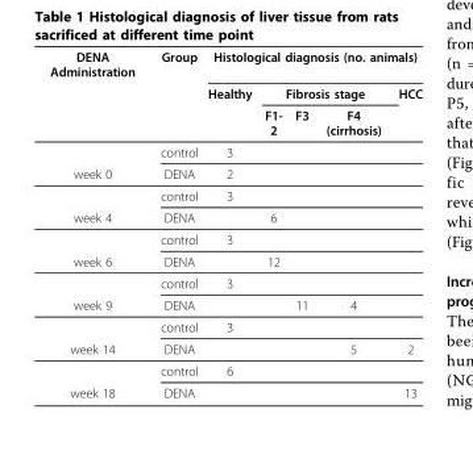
<table><thead><tr><td rowspan="3">DENA Administration</td><td rowspan="3">Group</td><td colspan="5">Histological diagnosis (no. animals)</td></tr><tr><td rowspan="2">Healthy</td><td colspan="3">Fibrosis stage</td><td rowspan="2">HCC</td></tr><tr><td>F1- 2</td><td>F3</td><td>F4 (cirrhosis)</td></tr></thead><tbody><tr><td></td><td>control</td><td>3</td><td></td><td></td><td></td><td></td></tr><tr><td rowspan="2">week 0</td><td>DENA</td><td>2</td><td></td><td></td><td></td><td></td></tr><tr><td>control</td><td>3</td><td></td><td></td><td></td><td></td></tr><tr><td rowspan="2">week 4</td><td>DENA</td><td></td><td>6</td><td></td><td></td><td></td></tr><tr><td>control</td><td>3</td><td></td><td></td><td></td><td></td></tr><tr><td rowspan="2">week 6</td><td>DENA</td><td></td><td>12</td><td></td><td></td><td></td></tr><tr><td>control</td><td>3</td><td></td><td></td><td></td><td></td></tr><tr><td rowspan="2">week 9</td><td>DENA</td><td></td><td></td><td>11</td><td>4</td><td></td></tr><tr><td>control</td><td>3</td><td></td><td></td><td></td><td></td></tr><tr><td rowspan="2">week 14</td><td>DENA</td><td></td><td></td><td></td><td>5</td><td>2</td></tr><tr><td>control</td><td>6</td><td></td><td></td><td></td><td></td></tr><tr><td>week 18</td><td>DENA</td><td></td><td></td><td></td><td></td><td>13</td></tr></tbody></table>